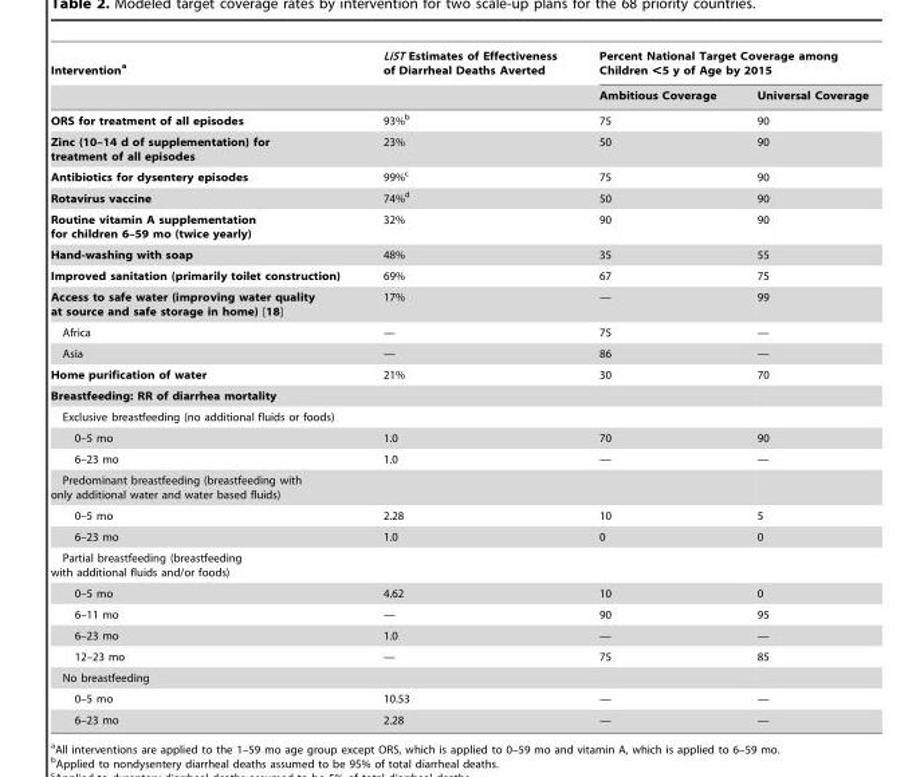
<table><thead><tr><td rowspan="2">Intervention<sup>a</sup></td><td rowspan="2">LiST Estimates of Effectiveness of Diarrheal Deaths Averted</td><td colspan="2">Percent National Target Coverage among Children &lt;5 y of Age by 2015</td></tr><tr><td>Ambitious Coverage</td><td>Universal Coverage</td></tr></thead><tbody><tr><td>ORS for treatment of all episodes</td><td>93%<sup>b</sup></td><td>75</td><td>90</td></tr><tr><td>Zinc (10–14 d of supplementation) for treatment of all episodes</td><td>23%</td><td>50</td><td>90</td></tr><tr><td>Antibiotics for dysentery episodes</td><td>99%<sup>c</sup></td><td>75</td><td>90</td></tr><tr><td>Rotavirus vaccine</td><td>74%<sup>d</sup></td><td>50</td><td>90</td></tr><tr><td>Routine vitamin A supplementation for children 6–59 mo (twice yearly)</td><td>32%</td><td>90</td><td>90</td></tr><tr><td>Hand-washing with soap</td><td>48%</td><td>35</td><td>55</td></tr><tr><td>Improved sanitation (primarily toilet construction)</td><td>69%</td><td>67</td><td>75</td></tr><tr><td>Access to safe water (improving water quality at source and safe storage in home) [18]</td><td>17%</td><td>—</td><td>99</td></tr><tr><td>Africa</td><td>—</td><td>75</td><td>—</td></tr><tr><td>Asia</td><td>—</td><td>86</td><td>—</td></tr><tr><td>Home purification of water</td><td>21%</td><td>30</td><td>70</td></tr><tr><td colspan="4">Breastfeeding: RR of diarrhea mortality</td></tr><tr><td colspan="4">Exclusive breastfeeding (no additional fluids or foods)</td></tr><tr><td>0–5 mo</td><td>1.0</td><td>70</td><td>90</td></tr><tr><td>6–23 mo</td><td>1.0</td><td>—</td><td>—</td></tr><tr><td colspan="4">Predominant breastfeeding (breastfeeding with only additional water and water based fluids)</td></tr><tr><td>0–5 mo</td><td>2.28</td><td>10</td><td>5</td></tr><tr><td>6–23 mo</td><td>1.0</td><td>0</td><td>0</td></tr><tr><td colspan="4">Partial breastfeeding (breastfeeding with additional fluids and/or foods)</td></tr><tr><td>0–5 mo</td><td>4.62</td><td>10</td><td>0</td></tr><tr><td>6–11 mo</td><td>—</td><td>90</td><td>95</td></tr><tr><td>6–23 mo</td><td>1.0</td><td>—</td><td>—</td></tr><tr><td>12–23 mo</td><td>—</td><td>75</td><td>85</td></tr><tr><td colspan="4">No breastfeeding</td></tr><tr><td>0–5 mo</td><td>10.53</td><td>—</td><td>—</td></tr><tr><td>6–23 mo</td><td>2.28</td><td>—</td><td>—</td></tr></tbody></table>